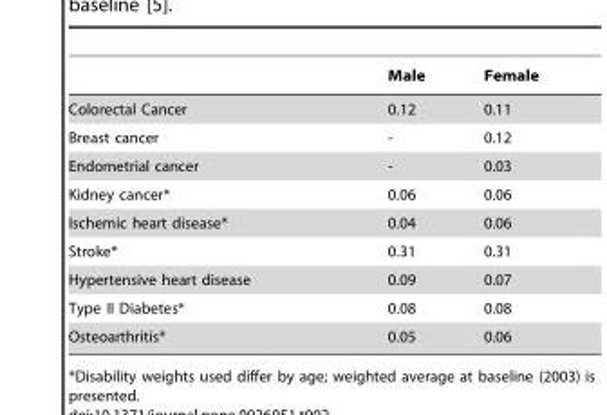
<table><thead><tr><td></td><td>Male</td><td>Female</td></tr></thead><tbody><tr><td>Colorectal Cancer</td><td>0.12</td><td>0.11</td></tr><tr><td>Breast cancer</td><td>-</td><td>0.12</td></tr><tr><td>Endometrial cancer</td><td>-</td><td>0.03</td></tr><tr><td>Kidney cancer*</td><td>0.06</td><td>0.06</td></tr><tr><td>Ischemic heart disease*</td><td>0.04</td><td>0.06</td></tr><tr><td>Stroke*</td><td>0.31</td><td>0.31</td></tr><tr><td>Hypertensive heart disease</td><td>0.09</td><td>0.07</td></tr><tr><td>Type II Diabetes*</td><td>0.08</td><td>0.08</td></tr><tr><td>Osteoarthritis*</td><td>0.05</td><td>0.06</td></tr></tbody></table>